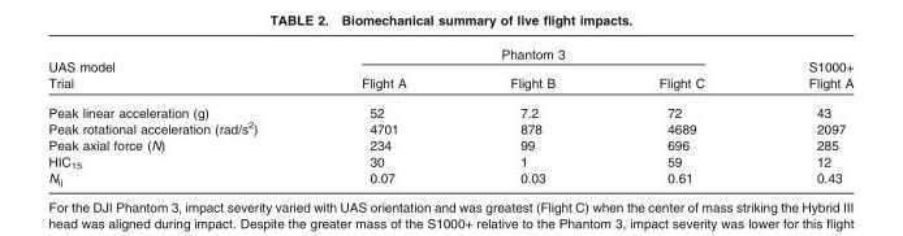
<table><thead><tr><td rowspan="2">UAS model Trial</td><td colspan="3">Phantom 3</td><td rowspan="2">S1000+ Flight A</td></tr><tr><td>Flight A</td><td>Flight B</td><td>Flight C</td></tr></thead><tbody><tr><td>Peak linear acceleration (g)</td><td>52</td><td>7.2</td><td>72</td><td>43</td></tr><tr><td>Peak rotational acceleration (rad/s<sup>2</sup>)</td><td>4701</td><td>878</td><td>4689</td><td>2097</td></tr><tr><td>Peak axial force (N)</td><td>234</td><td>99</td><td>696</td><td>285</td></tr><tr><td>HIC<sub>15</sub></td><td>30</td><td>1</td><td>59</td><td>12</td></tr><tr><td>N<sub>ij</sub></td><td>0.07</td><td>0.03</td><td>0.61</td><td>0.43</td></tr></tbody></table>